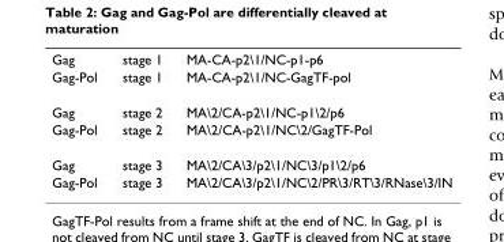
<table><tbody><tr><td>Gag</td><td>stage 1</td><td>MA-CA-p2\1/NC-p1-p6</td></tr><tr><td>Gag-Pol</td><td>stage 1</td><td>MA-CA-p2\1/NC-GagTF-pol</td></tr><tr><td>Gag</td><td>stage 2</td><td>MA\2/CA-p2\1/NC-p1\2/p6</td></tr><tr><td>Gag-Pol</td><td>stage 2</td><td>MA\2/CA-p2\1/NC\2/GagTF-Pol</td></tr><tr><td>Gag</td><td>stage 3</td><td>MA\2/CA\3/p2\1/NC\3/p1\2/p6</td></tr><tr><td>Gag-Pol</td><td>stage 3</td><td>MA\2/CA\3/p2\1/NC\2/PR\3/RT\3/RNase\3/IN</td></tr></tbody></table>